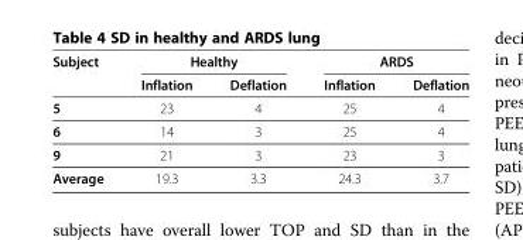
<table><thead><tr><td rowspan="2">Subject</td><td colspan="2">Healthy</td><td colspan="2">ARDS</td></tr><tr><td>Inflation</td><td>Deflation</td><td>Inflation</td><td>Deflation</td></tr></thead><tbody><tr><td>5</td><td>23</td><td>4</td><td>25</td><td>4</td></tr><tr><td>6</td><td>14</td><td>3</td><td>25</td><td>4</td></tr><tr><td>9</td><td>21</td><td>3</td><td>23</td><td>3</td></tr><tr><td>Average</td><td>19.3</td><td>3.3</td><td>24.3</td><td>3.7</td></tr></tbody></table>